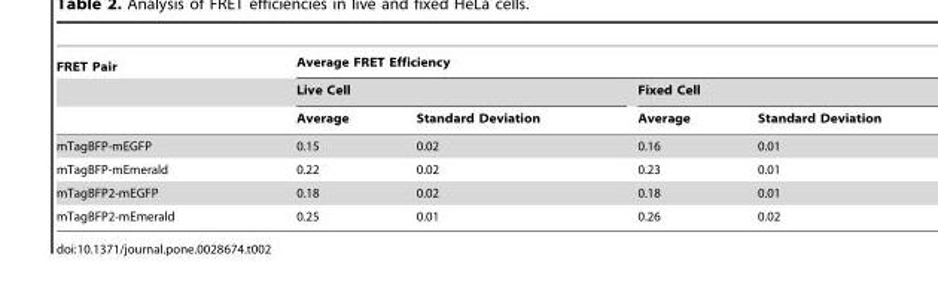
<table><thead><tr><td rowspan="3">FRET Pair</td><td colspan="4">Average FRET Efficiency</td></tr><tr><td colspan="2">Live Cell</td><td colspan="2">Fixed Cell</td></tr><tr><td>Average</td><td>Standard Deviation</td><td>Average</td><td>Standard Deviation</td></tr></thead><tbody><tr><td>mTagBFP-mEGFP</td><td>0.15</td><td>0.02</td><td>0.16</td><td>0.01</td></tr><tr><td>mTagBFP-mEmerald</td><td>0.22</td><td>0.02</td><td>0.23</td><td>0.01</td></tr><tr><td>mTagBFP2-mEGFP</td><td>0.18</td><td>0.02</td><td>0.18</td><td>0.01</td></tr><tr><td>mTagBFP2-mEmerald</td><td>0.25</td><td>0.01</td><td>0.26</td><td>0.02</td></tr></tbody></table>